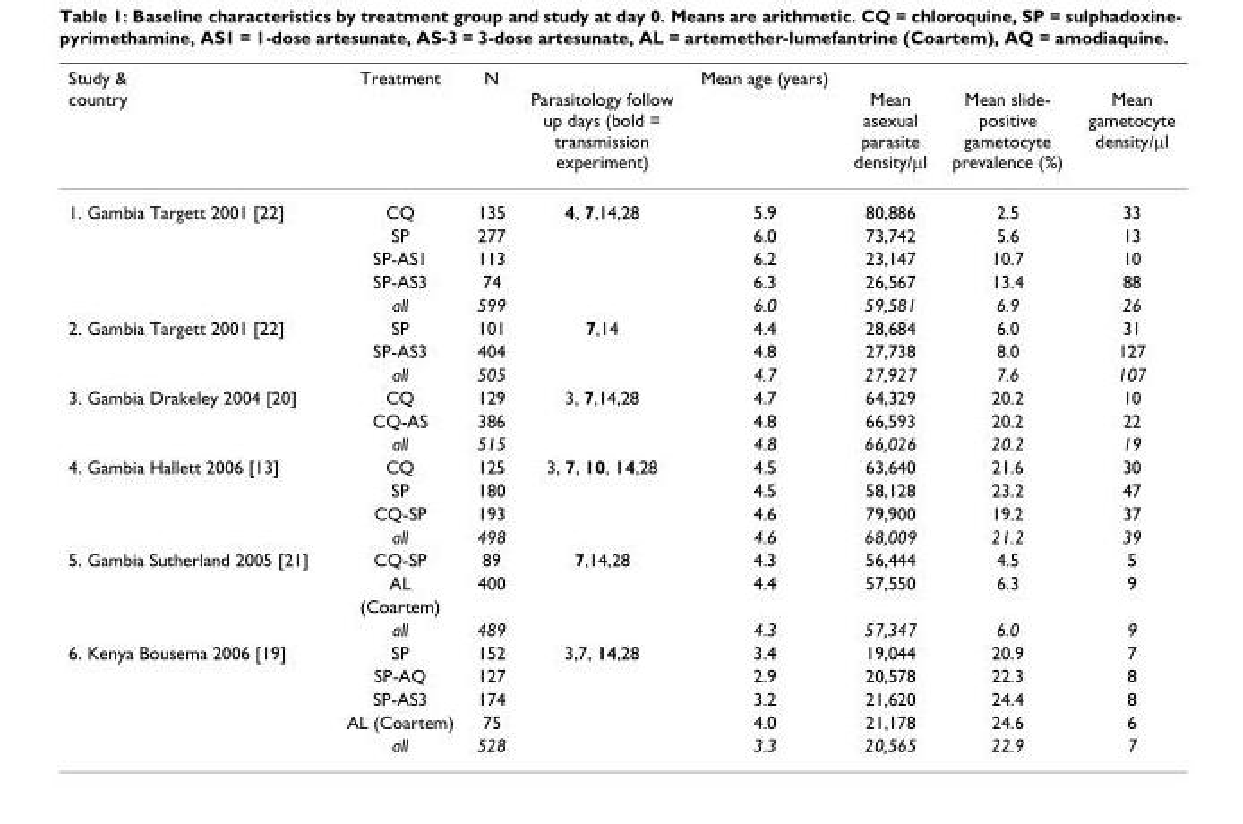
<table><thead><tr><td>Study &amp; country</td><td>Treatment</td><td>N</td><td>Parasitology follow up days (bold = transmission experiment)</td><td>Mean age (years)</td><td>Mean asexual parasite density/μl</td><td>Mean slide- positive gametocyte prevalence (%)</td><td>Mean gametocyte density/μl</td></tr></thead><tbody><tr><td rowspan="5">1. Gambia Targett 2001 [22]</td><td>CQ</td><td>135</td><td>4, 7,14,28</td><td>5.9</td><td>80,886</td><td>2.5</td><td>33</td></tr><tr><td>SP</td><td>277</td><td></td><td>6.0</td><td>73,742</td><td>5.6</td><td>13</td></tr><tr><td>SP-AS1</td><td>113</td><td></td><td>6.2</td><td>23,147</td><td>10.7</td><td>10</td></tr><tr><td>SP-AS3</td><td>74</td><td></td><td>6.3</td><td>26,567</td><td>13.4</td><td>88</td></tr><tr><td>all</td><td>599</td><td></td><td>6.0</td><td>59,581</td><td>6.9</td><td>26</td></tr><tr><td rowspan="3">2. Gambia Targett 2001 [22]</td><td>SP</td><td>101</td><td>7,14</td><td>4.4</td><td>28,684</td><td>6.0</td><td>31</td></tr><tr><td>SP-AS3</td><td>404</td><td></td><td>4.8</td><td>27,738</td><td>8.0</td><td>127</td></tr><tr><td>all</td><td>505</td><td></td><td>4.7</td><td>27,927</td><td>7.6</td><td>107</td></tr><tr><td rowspan="3">3. Gambia Drakeley 2004 [20]</td><td>CQ</td><td>129</td><td>3, 7,14,28</td><td>4.7</td><td>64,329</td><td>20.2</td><td>10</td></tr><tr><td>CQ-AS</td><td>386</td><td></td><td>4.8</td><td>66,593</td><td>20.2</td><td>22</td></tr><tr><td>all</td><td>515</td><td></td><td>4.8</td><td>66,026</td><td>20.2</td><td>19</td></tr><tr><td rowspan="4">4. Gambia Hallett 2006 [13]</td><td>CQ</td><td>125</td><td>3, 7, 10, 14,28</td><td>4.5</td><td>63,640</td><td>21.6</td><td>30</td></tr><tr><td>SP</td><td>180</td><td></td><td>4.5</td><td>58,128</td><td>23.2</td><td>47</td></tr><tr><td>CQ-SP</td><td>193</td><td></td><td>4.6</td><td>79,900</td><td>19.2</td><td>37</td></tr><tr><td>all</td><td>498</td><td></td><td>4.6</td><td>68,009</td><td>21.2</td><td>39</td></tr><tr><td rowspan="4">5. Gambia Sutherland 2005 [21]</td><td>CQ-SP</td><td>89</td><td>7,14,28</td><td>4.3</td><td>56,444</td><td>4.5</td><td>5</td></tr><tr><td>AL</td><td>400</td><td></td><td>4.4</td><td>57,550</td><td>6.3</td><td>9</td></tr><tr><td>(Coartem)</td><td></td><td></td><td></td><td></td><td></td><td></td></tr><tr><td>all</td><td>489</td><td></td><td>4.3</td><td>57,347</td><td>6.0</td><td>9</td></tr><tr><td rowspan="5">6. Kenya Bousema 2006 [19]</td><td>SP</td><td>152</td><td>3,7, 14,28</td><td>3.4</td><td>19,044</td><td>20.9</td><td>7</td></tr><tr><td>SP-AQ</td><td>127</td><td></td><td>2.9</td><td>20,578</td><td>22.3</td><td>8</td></tr><tr><td>SP-AS3</td><td>174</td><td></td><td>3.2</td><td>21,620</td><td>24.4</td><td>8</td></tr><tr><td>AL (Coartem)</td><td>75</td><td></td><td>4.0</td><td>21,178</td><td>24.6</td><td>6</td></tr><tr><td>all</td><td>528</td><td></td><td>3.3</td><td>20,565</td><td>22.9</td><td>7</td></tr></tbody></table>